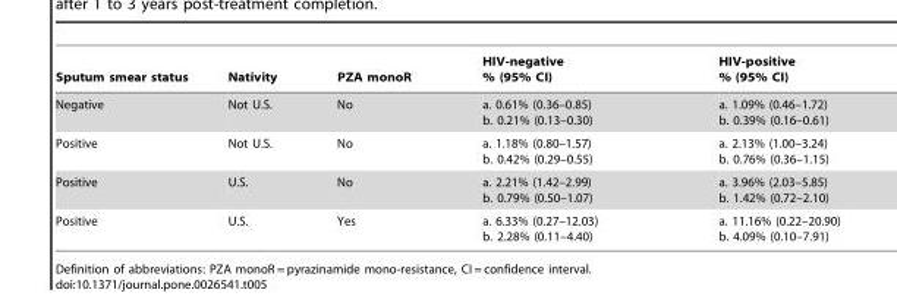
<table><thead><tr><td>Sputum smear status</td><td>Nativity</td><td>PZA monoR</td><td>HIV-negative % (95% CI)</td><td>HIV-positive % (95% CI)</td></tr></thead><tbody><tr><td>Negative</td><td>Not U.S.</td><td>No</td><td>a. 0.61% (0.36–0.85) b. 0.21% (0.13–0.30)</td><td>a. 1.09% (0.46–1.72) b. 0.39% (0.16–0.61)</td></tr><tr><td>Positive</td><td>Not U.S.</td><td>No</td><td>a. 1.18% (0.80–1.57) b. 0.42% (0.29–0.55)</td><td>a. 2.13% (1.00–3.24) b. 0.76% (0.36–1.15)</td></tr><tr><td>Positive</td><td>U.S.</td><td>No</td><td>a. 2.21% (1.42–2.99) b. 0.79% (0.50–1.07)</td><td>a. 3.96% (2.03–5.85) b. 1.42% (0.72–2.10)</td></tr><tr><td>Positive</td><td>U.S.</td><td>Yes</td><td>a. 6.33% (0.27–12.03) b. 2.28% (0.11–4.40)</td><td>a. 11.16% (0.22–20.90) b. 4.09% (0.10–7.91)</td></tr></tbody></table>